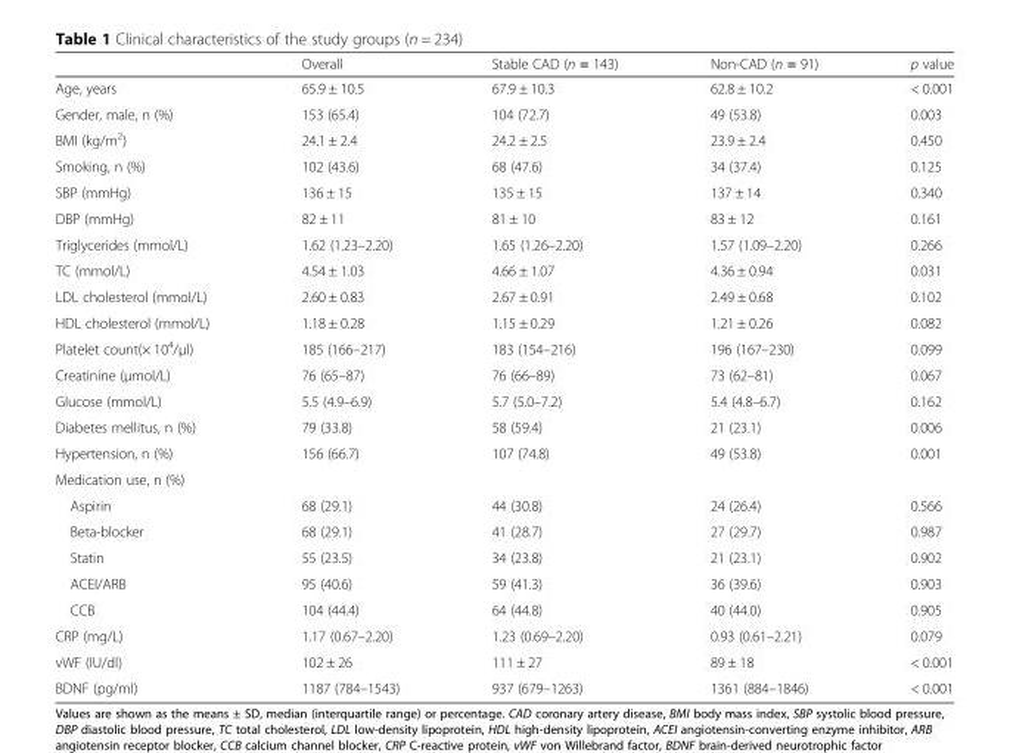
<table><thead><tr><td></td><td>Overall</td><td>Stable CAD (n = 143)</td><td>Non-CAD (n = 91)</td><td>p value</td></tr></thead><tbody><tr><td>Age, years</td><td>65.9 ± 10.5</td><td>67.9 ± 10.3</td><td>62.8 ± 10.2</td><td>&lt; 0.001</td></tr><tr><td>Gender, male, n (%)</td><td>153 (65.4)</td><td>104 (72.7)</td><td>49 (53.8)</td><td>0.003</td></tr><tr><td>BMI (kg/m<sup>2</sup>)</td><td>24.1 ± 2.4</td><td>24.2 ± 2.5</td><td>23.9 ± 2.4</td><td>0.450</td></tr><tr><td>Smoking, n (%)</td><td>102 (43.6)</td><td>68 (47.6)</td><td>34 (37.4)</td><td>0.125</td></tr><tr><td>SBP (mmHg)</td><td>136 ± 15</td><td>135 ± 15</td><td>137 ± 14</td><td>0.340</td></tr><tr><td>DBP (mmHg)</td><td>82 ± 11</td><td>81 ± 10</td><td>83 ± 12</td><td>0.161</td></tr><tr><td>Triglycerides (mmol/L)</td><td>1.62 (1.23–2.20)</td><td>1.65 (1.26–2.20)</td><td>1.57 (1.09–2.20)</td><td>0.266</td></tr><tr><td>TC (mmol/L)</td><td>4.54 ± 1.03</td><td>4.66 ± 1.07</td><td>4.36 ± 0.94</td><td>0.031</td></tr><tr><td>LDL cholesterol (mmol/L)</td><td>2.60 ± 0.83</td><td>2.67 ± 0.91</td><td>2.49 ± 0.68</td><td>0.102</td></tr><tr><td>HDL cholesterol (mmol/L)</td><td>1.18 ± 0.28</td><td>1.15 ± 0.29</td><td>1.21 ± 0.26</td><td>0.082</td></tr><tr><td>Platelet count(× 10<sup>4</sup>/μl)</td><td>185 (166–217)</td><td>183 (154–216)</td><td>196 (167–230)</td><td>0.099</td></tr><tr><td>Creatinine (μmol/L)</td><td>76 (65–87)</td><td>76 (66–89)</td><td>73 (62–81)</td><td>0.067</td></tr><tr><td>Glucose (mmol/L)</td><td>5.5 (4.9–6.9)</td><td>5.7 (5.0–7.2)</td><td>5.4 (4.8–6.7)</td><td>0.162</td></tr><tr><td>Diabetes mellitus, n (%)</td><td>79 (33.8)</td><td>58 (59.4)</td><td>21 (23.1)</td><td>0.006</td></tr><tr><td>Hypertension, n (%)</td><td>156 (66.7)</td><td>107 (74.8)</td><td>49 (53.8)</td><td>0.001</td></tr><tr><td colspan="5">Medication use, n (%)</td></tr><tr><td>Aspirin</td><td>68 (29.1)</td><td>44 (30.8)</td><td>24 (26.4)</td><td>0.566</td></tr><tr><td>Beta-blocker</td><td>68 (29.1)</td><td>41 (28.7)</td><td>27 (29.7)</td><td>0.987</td></tr><tr><td>Statin</td><td>55 (23.5)</td><td>34 (23.8)</td><td>21 (23.1)</td><td>0.902</td></tr><tr><td>ACEI/ARB</td><td>95 (40.6)</td><td>59 (41.3)</td><td>36 (39.6)</td><td>0.903</td></tr><tr><td>CCB</td><td>104 (44.4)</td><td>64 (44.8)</td><td>40 (44.0)</td><td>0.905</td></tr><tr><td>CRP (mg/L)</td><td>1.17 (0.67–2.20)</td><td>1.23 (0.69–2.20)</td><td>0.93 (0.61–2.21)</td><td>0.079</td></tr><tr><td>vWF (IU/dl)</td><td>102 ± 26</td><td>111 ± 27</td><td>89 ± 18</td><td>&lt; 0.001</td></tr><tr><td>BDNF (pg/ml)</td><td>1187 (784–1543)</td><td>937 (679–1263)</td><td>1361 (884–1846)</td><td>&lt; 0.001</td></tr></tbody></table>